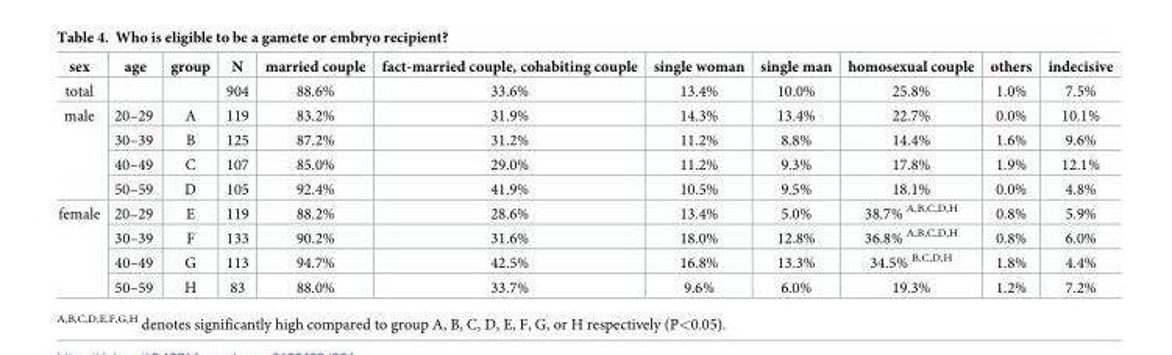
<table><thead><tr><td>sex</td><td>age</td><td>group</td><td>N</td><td>married couple</td><td>fact-married couple, cohabiting couple</td><td>single woman</td><td>single man</td><td>homosexual couple</td><td>others</td><td>indecisive</td></tr></thead><tbody><tr><td>total</td><td></td><td></td><td>904</td><td>88.6%</td><td>33.6%</td><td>13.4%</td><td>10.0%</td><td>25.8%</td><td>1.0%</td><td>7.5%</td></tr><tr><td rowspan="4">male</td><td>20–29</td><td>A</td><td>119</td><td>83.2%</td><td>31.9%</td><td>14.3%</td><td>13.4%</td><td>22.7%</td><td>0.0%</td><td>10.1%</td></tr><tr><td>30–39</td><td>B</td><td>125</td><td>87.2%</td><td>31.2%</td><td>11.2%</td><td>8.8%</td><td>14.4%</td><td>1.6%</td><td>9.6%</td></tr><tr><td>40–49</td><td>C</td><td>107</td><td>85.0%</td><td>29.0%</td><td>11.2%</td><td>9.3%</td><td>17.8%</td><td>1.9%</td><td>12.1%</td></tr><tr><td>50–59</td><td>D</td><td>105</td><td>92.4%</td><td>41.9%</td><td>10.5%</td><td>9.5%</td><td>18.1%</td><td>0.0%</td><td>4.8%</td></tr><tr><td rowspan="4">female</td><td>20–29</td><td>E</td><td>119</td><td>88.2%</td><td>28.6%</td><td>13.4%</td><td>5.0%</td><td>38.7% <sup>A,B,C,D,H</sup></td><td>0.8%</td><td>5.9%</td></tr><tr><td>30–39</td><td>F</td><td>133</td><td>90.2%</td><td>31.6%</td><td>18.0%</td><td>12.8%</td><td>36.8% <sup>A,B,C,D,H</sup></td><td>0.8%</td><td>6.0%</td></tr><tr><td>40–49</td><td>G</td><td>113</td><td>94.7%</td><td>42.5%</td><td>16.8%</td><td>13.3%</td><td>34.5% <sup>B,C,D,H</sup></td><td>1.8%</td><td>4.4%</td></tr><tr><td>50–59</td><td>H</td><td>83</td><td>88.0%</td><td>33.7%</td><td>9.6%</td><td>6.0%</td><td>19.3%</td><td>1.2%</td><td>7.2%</td></tr></tbody></table>